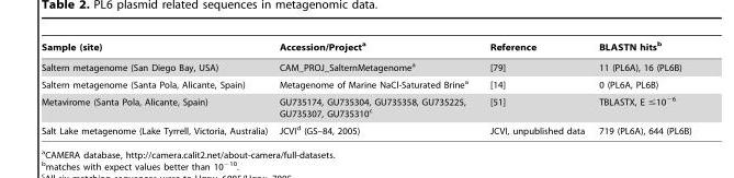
<table><thead><tr><td>Sample (site)</td><td>Accession/Project<sup>a</sup></td><td>Reference</td><td>BLASTN hits<sup>b</sup></td></tr></thead><tbody><tr><td>Saltern metagenome (San Diego Bay, USA)</td><td>CAM_PROJ_SalternMetagenome<sup>a</sup></td><td>[79]</td><td>11 (PL6A), 16 (PL6B)</td></tr><tr><td>Saltern metagenome (Santa Pola, Alicante, Spain)</td><td>Metagenome of Marine NaCl-Saturated Brine<sup>a</sup></td><td>[14]</td><td>0 (PL6A, PL6B)</td></tr><tr><td>Metavirome (Santa Pola, Alicante, Spain)</td><td>GU735174, GU735304, GU735358, GU735225, GU735307, GU735310<sup>c</sup></td><td>[51]</td><td>TBLASTX, E ≤10<sup>−6</sup></td></tr><tr><td>Salt Lake metagenome (Lake Tyrrell, Victoria, Australia)</td><td>JCVI<sup>d</sup> (GS–84, 2005)</td><td>JCVI, unpublished data</td><td>719 (PL6A), 644 (PL6B)</td></tr></tbody></table>